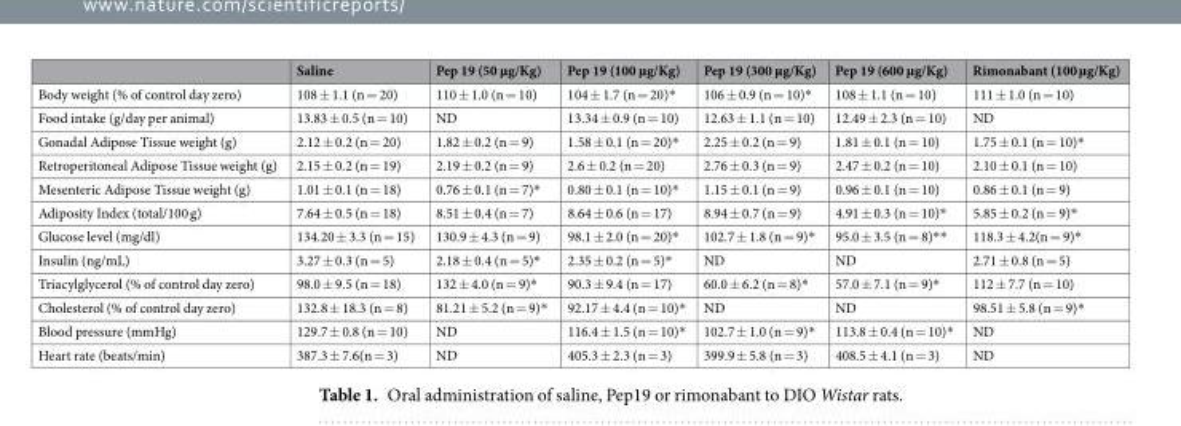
<table><thead><tr><td></td><td>Saline</td><td>Pep 19 (50 µg/Kg)</td><td>Pep 19 (100 µg/Kg)</td><td>Pep 19 (300 µg/Kg)</td><td>Pep 19 (600 µg/Kg)</td><td>Rimonabant (100 µg/Kg)</td></tr></thead><tbody><tr><td>Body weight (% of control day zero)</td><td>108 ± 1.1 (n = 20)</td><td>110 ± 1.0 (n = 10)</td><td>104 ± 1.7 (n = 20)*</td><td>106 ± 0.9 (n = 10)*</td><td>108 ± 1.1 (n = 10)</td><td>111 ± 1.0 (n = 10)</td></tr><tr><td>Food intake (g/day per animal)</td><td>13.83 ± 0.5 (n = 10)</td><td>ND</td><td>13.34 ± 0.9 (n = 10)</td><td>12.63 ± 1.1 (n = 10)</td><td>12.49 ± 2.3 (n = 10)</td><td>ND</td></tr><tr><td>Gonadal Adipose Tissue weight (g)</td><td>2.12 ± 0.2 (n = 20)</td><td>1.82 ± 0.2 (n = 9)</td><td>1.58 ± 0.1 (n = 20)*</td><td>2.25 ± 0.2 (n = 9)</td><td>1.81 ± 0.1 (n = 10)</td><td>1.75 ± 0.1 (n = 10)*</td></tr><tr><td>Retroperitoneal Adipose Tissue weight (g)</td><td>2.15 ± 0.2 (n = 19)</td><td>2.19 ± 0.2 (n = 9)</td><td>2.6 ± 0.2 (n = 20)</td><td>2.76 ± 0.3 (n = 9)</td><td>2.47 ± 0.2 (n = 10)</td><td>2.10 ± 0.1 (n = 10)</td></tr><tr><td>Mesenteric Adipose Tissue weight (g)</td><td>1.01 ± 0.1 (n = 18)</td><td>0.76 ± 0.1 (n = 7)*</td><td>0.80 ± 0.1 (n = 10)*</td><td>1.15 ± 0.1 (n = 9)</td><td>0.96 ± 0.1 (n = 10)</td><td>0.86 ± 0.1 (n = 9)</td></tr><tr><td>Adiposity Index (total/100 g)</td><td>7.64 ± 0.5 (n = 18)</td><td>8.51 ± 0.4 (n = 7)</td><td>8.64 ± 0.6 (n = 17)</td><td>8.94 ± 0.7 (n = 9)</td><td>4.91 ± 0.3 (n = 10)*</td><td>5.85 ± 0.2 (n = 9)*</td></tr><tr><td>Glucose level (mg/dl)</td><td>134.20 ± 3.3 (n = 15)</td><td>130.9 ± 4.3 (n = 9)</td><td>98.1 ± 2.0 (n = 20)*</td><td>102.7 ± 1.8 (n = 9)*</td><td>95.0 ± 3.5 (n = 8)**</td><td>118.3 ± 4.2(n = 9)*</td></tr><tr><td>Insulin (ng/mL)</td><td>3.27 ± 0.3 (n = 5)</td><td>2.18 ± 0.4 (n = 5)*</td><td>2.35 ± 0.2 (n = 5)*</td><td>ND</td><td>ND</td><td>2.71 ± 0.8 (n = 5)</td></tr><tr><td>Triacylglycerol (% of control day zero)</td><td>98.0 ± 9.5 (n = 18)</td><td>132 ± 4.0 (n = 9)*</td><td>90.3 ± 9.4 (n = 17)</td><td>60.0 ± 6.2 (n = 8)*</td><td>57.0 ± 7.1 (n = 9)*</td><td>112 ± 7.7 (n = 10)</td></tr><tr><td>Cholesterol (% of control day zero)</td><td>132.8 ± 18.3 (n = 8)</td><td>81.21 ± 5.2 (n = 9)*</td><td>92.17 ± 4.4 (n = 10)*</td><td>ND</td><td>ND</td><td>98.51 ± 5.8 (n = 9)*</td></tr><tr><td>Blood pressure (mmHg)</td><td>129.7 ± 0.8 (n = 10)</td><td>ND</td><td>116.4 ± 1.5 (n = 10)*</td><td>102.7 ± 1.0 (n = 9)*</td><td>113.8 ± 0.4 (n = 10)*</td><td>ND</td></tr><tr><td>Heart rate (beats/min)</td><td>387.3 ± 7.6(n = 3)</td><td>ND</td><td>405.3 ± 2.3 (n = 3)</td><td>399.9 ± 5.8 (n = 3)</td><td>408.5 ± 4.1 (n = 3)</td><td>ND</td></tr></tbody></table>